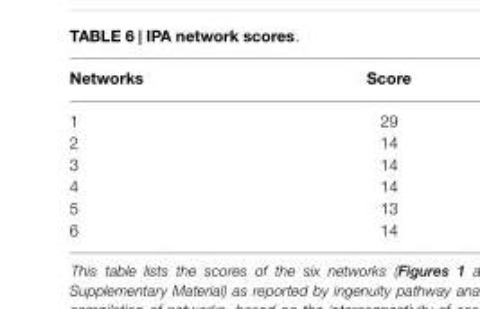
<table><thead><tr><td>Networks</td><td>Score</td></tr></thead><tbody><tr><td>1</td><td>29</td></tr><tr><td>2</td><td>14</td></tr><tr><td>3</td><td>14</td></tr><tr><td>4</td><td>14</td></tr><tr><td>5</td><td>13</td></tr><tr><td>6</td><td>14</td></tr></tbody></table>